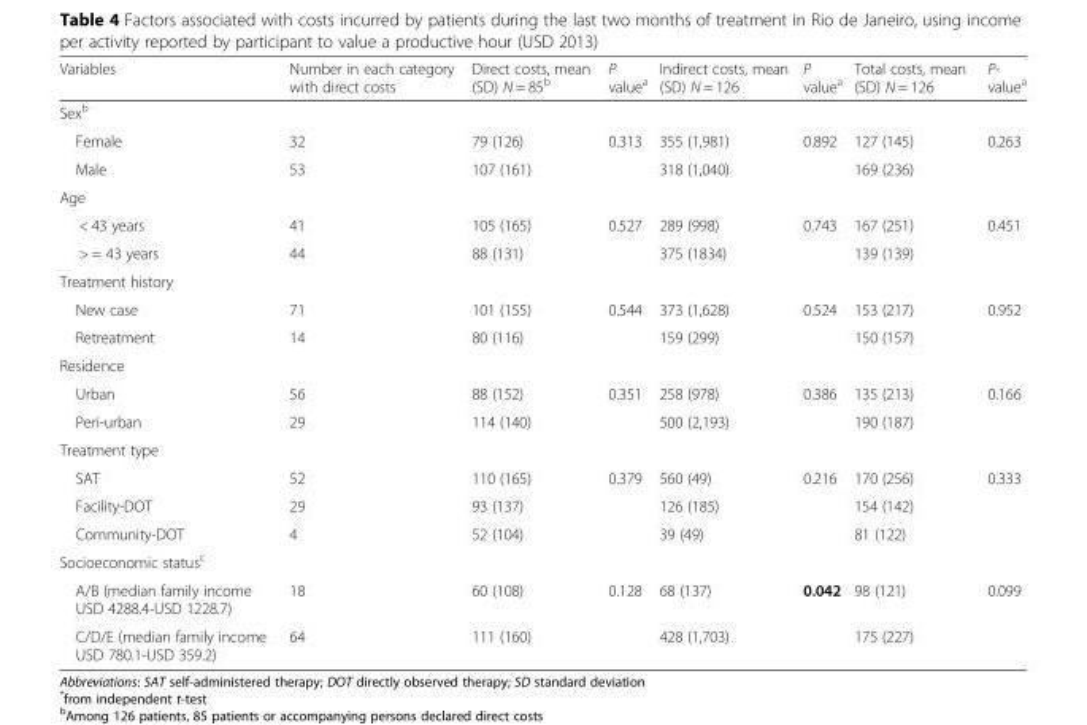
<table><thead><tr><td>Variables</td><td>Number in each category with direct costs</td><td>Direct costs, mean (SD) N = 85<sup>b</sup></td><td>P value<sup>a</sup></td><td>Indirect costs, mean (SD) N = 126</td><td>P value<sup>a</sup></td><td>Total costs, mean (SD) N = 126</td><td>P- value<sup>a</sup></td></tr></thead><tbody><tr><td colspan="8">Sex<sup>b</sup></td></tr><tr><td>Female</td><td>32</td><td>79 (126)</td><td>0.313</td><td>355 (1,981)</td><td>0.892</td><td>127 (145)</td><td>0.263</td></tr><tr><td>Male</td><td>53</td><td>107 (161)</td><td></td><td>318 (1,040)</td><td></td><td>169 (236)</td><td></td></tr><tr><td colspan="8">Age</td></tr><tr><td>&lt; 43 years</td><td>41</td><td>105 (165)</td><td>0.527</td><td>289 (998)</td><td>0.743</td><td>167 (251)</td><td>0.451</td></tr><tr><td>&gt; = 43 years</td><td>44</td><td>88 (131)</td><td></td><td>375 (1834)</td><td></td><td>139 (139)</td><td></td></tr><tr><td colspan="8">Treatment history</td></tr><tr><td>New case</td><td>71</td><td>101 (155)</td><td>0.544</td><td>373 (1,628)</td><td>0.524</td><td>153 (217)</td><td>0.952</td></tr><tr><td>Retreatment</td><td>14</td><td>80 (116)</td><td></td><td>159 (299)</td><td></td><td>150 (157)</td><td></td></tr><tr><td colspan="8">Residence</td></tr><tr><td>Urban</td><td>56</td><td>88 (152)</td><td>0.351</td><td>258 (978)</td><td>0.386</td><td>135 (213)</td><td>0.166</td></tr><tr><td>Peri-urban</td><td>29</td><td>114 (140)</td><td></td><td>500 (2,193)</td><td></td><td>190 (187)</td><td></td></tr><tr><td colspan="8">Treatment type</td></tr><tr><td>SAT</td><td>52</td><td>110 (165)</td><td>0.379</td><td>560 (49)</td><td>0.216</td><td>170 (256)</td><td>0.333</td></tr><tr><td>Facility-DOT</td><td>29</td><td>93 (137)</td><td></td><td>126 (185)</td><td></td><td>154 (142)</td><td></td></tr><tr><td>Community-DOT</td><td>4</td><td>52 (104)</td><td></td><td>39 (49)</td><td></td><td>81 (122)</td><td></td></tr><tr><td colspan="8">Socioeconomic status<sup>c</sup></td></tr><tr><td>A/B (median family income USD 4288.4-USD 1228.7)</td><td>18</td><td>60 (108)</td><td>0.128</td><td>68 (137)</td><td>0.042</td><td>98 (121)</td><td>0.099</td></tr><tr><td>C/D/E (median family income USD 780.1-USD 359.2)</td><td>64</td><td>111 (160)</td><td></td><td>428 (1,703)</td><td></td><td>175 (227)</td><td></td></tr></tbody></table>